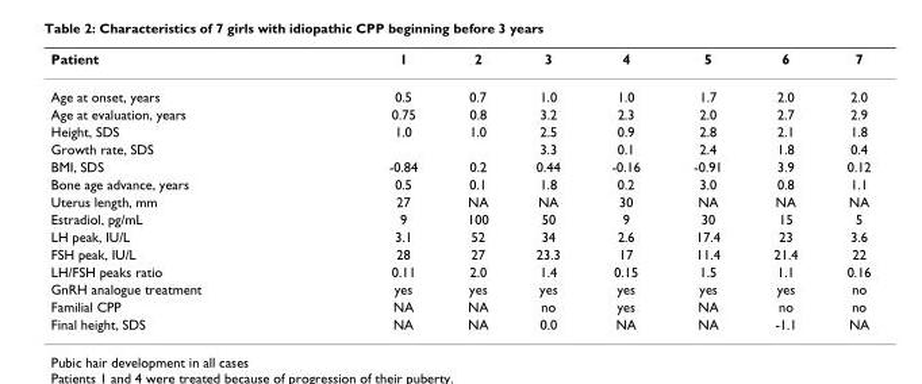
<table><thead><tr><td>Patient</td><td>1</td><td>2</td><td>3</td><td>4</td><td>5</td><td>6</td><td>7</td></tr></thead><tbody><tr><td>Age at onset, years</td><td>0.5</td><td>0.7</td><td>1.0</td><td>1.0</td><td>1.7</td><td>2.0</td><td>2.0</td></tr><tr><td>Age at evaluation, years</td><td>0.75</td><td>0.8</td><td>3.2</td><td>2.3</td><td>2.0</td><td>2.7</td><td>2.9</td></tr><tr><td>Height, SDS</td><td>1.0</td><td>1.0</td><td>2.5</td><td>0.9</td><td>2.8</td><td>2.1</td><td>1.8</td></tr><tr><td>Growth rate, SDS</td><td></td><td></td><td>3.3</td><td>0.1</td><td>2.4</td><td>1.8</td><td>0.4</td></tr><tr><td>BMI, SDS</td><td>-0.84</td><td>0.2</td><td>0.44</td><td>-0.16</td><td>-0.91</td><td>3.9</td><td>0.12</td></tr><tr><td>Bone age advance, years</td><td>0.5</td><td>0.1</td><td>1.8</td><td>0.2</td><td>3.0</td><td>0.8</td><td>1.1</td></tr><tr><td>Uterus length, mm</td><td>27</td><td>NA</td><td>NA</td><td>30</td><td>NA</td><td>NA</td><td>NA</td></tr><tr><td>Estradiol, pg/mL</td><td>9</td><td>100</td><td>50</td><td>9</td><td>30</td><td>15</td><td>5</td></tr><tr><td>LH peak, IU/L</td><td>3.1</td><td>52</td><td>34</td><td>2.6</td><td>17.4</td><td>23</td><td>3.6</td></tr><tr><td>FSH peak, IU/L</td><td>28</td><td>27</td><td>23.3</td><td>17</td><td>11.4</td><td>21.4</td><td>22</td></tr><tr><td>LH/FSH peaks ratio</td><td>0.11</td><td>2.0</td><td>1.4</td><td>0.15</td><td>1.5</td><td>1.1</td><td>0.16</td></tr><tr><td>GnRH analogue treatment</td><td>yes</td><td>yes</td><td>yes</td><td>yes</td><td>yes</td><td>yes</td><td>no</td></tr><tr><td>Familial CPP</td><td>NA</td><td>NA</td><td>no</td><td>yes</td><td>NA</td><td>no</td><td>no</td></tr><tr><td>Final height, SDS</td><td>NA</td><td>NA</td><td>0.0</td><td>NA</td><td>NA</td><td>-1.1</td><td>NA</td></tr></tbody></table>